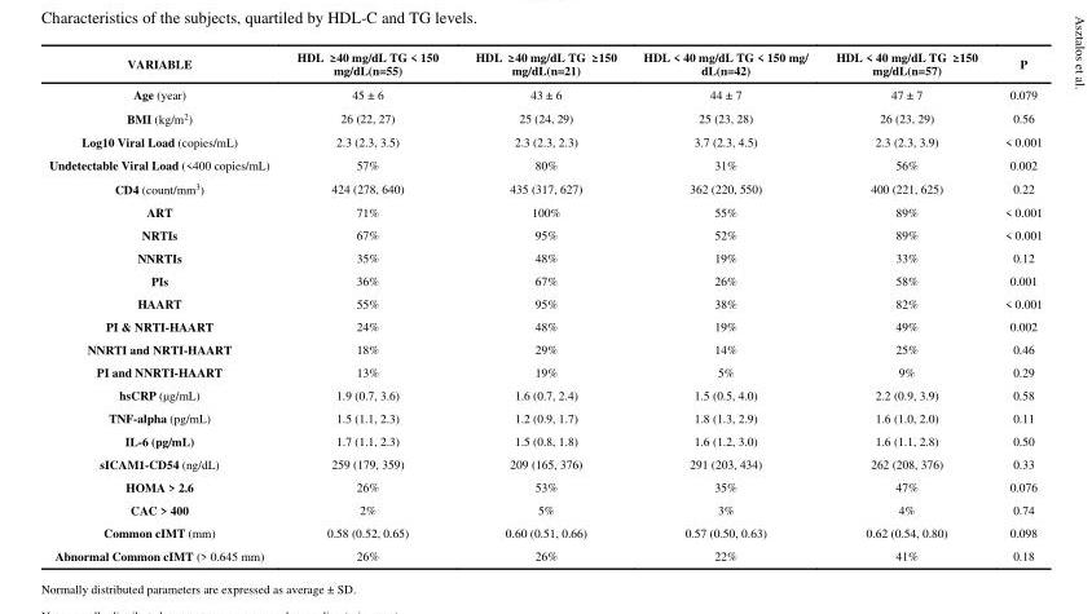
<table><thead><tr><td>VARIABLE</td><td>HDL ≥ 40 mg/dL TG &lt; 150 mg/dL(n=55)</td><td>HDL ≥ 40 mg/dL TG ≥ 150 mg/dL(n=21)</td><td>HDL &lt; 40 mg/dL TG &lt; 150 mg/ dL(n=42)</td><td>HDL &lt; 40 mg/dL TG ≥ 150 mg/dL(n=57)</td><td>P</td></tr></thead><tbody><tr><td>Age (year)</td><td>45 ± 6</td><td>43 ± 6</td><td>44 ± 7</td><td>47 ± 7</td><td>0.079</td></tr><tr><td>BMI (kg/m<sup>2</sup>)</td><td>26 (22, 27)</td><td>25 (24, 29)</td><td>25 (23, 28)</td><td>26 (23, 29)</td><td>0.56</td></tr><tr><td>Log10 Viral Load (copies/mL)</td><td>2.3 (2.3, 3.5)</td><td>2.3 (2.3, 2.3)</td><td>3.7 (2.3, 4.5)</td><td>2.3 (2.3, 3.9)</td><td>&lt; 0.001</td></tr><tr><td>Undetectable Viral Load (&lt;400 copies/mL)</td><td>57%</td><td>80%</td><td>31%</td><td>56%</td><td>0.002</td></tr><tr><td>CD4 (count/mm<sup>3</sup>)</td><td>424 (278, 640)</td><td>435 (317, 627)</td><td>362 (220, 550)</td><td>400 (221, 625)</td><td>0.22</td></tr><tr><td>ART</td><td>71%</td><td>100%</td><td>55%</td><td>89%</td><td>&lt; 0.001</td></tr><tr><td>NRTIs</td><td>67%</td><td>95%</td><td>52%</td><td>89%</td><td>&lt; 0.001</td></tr><tr><td>NNRTIs</td><td>35%</td><td>48%</td><td>19%</td><td>33%</td><td>0.12</td></tr><tr><td>PIs</td><td>36%</td><td>67%</td><td>26%</td><td>58%</td><td>0.001</td></tr><tr><td>HAART</td><td>55%</td><td>95%</td><td>38%</td><td>82%</td><td>&lt; 0.001</td></tr><tr><td>PI &amp; NRTI-HAART</td><td>24%</td><td>48%</td><td>19%</td><td>49%</td><td>0.002</td></tr><tr><td>NNRTI and NRTI-HAART</td><td>18%</td><td>29%</td><td>14%</td><td>25%</td><td>0.46</td></tr><tr><td>PI and NNRTI-HAART</td><td>13%</td><td>19%</td><td>5%</td><td>9%</td><td>0.29</td></tr><tr><td>hsCRP (μg/mL)</td><td>1.9 (0.7, 3.6)</td><td>1.6 (0.7, 2.4)</td><td>1.5 (0.5, 4.0)</td><td>2.2 (0.9, 3.9)</td><td>0.58</td></tr><tr><td>TNF-alpha (pg/mL)</td><td>1.5 (1.1, 2.3)</td><td>1.2 (0.9, 1.7)</td><td>1.8 (1.3, 2.9)</td><td>1.6 (1.0, 2.0)</td><td>0.11</td></tr><tr><td>IL-6 (pg/mL)</td><td>1.7 (1.1, 2.3)</td><td>1.5 (0.8, 1.8)</td><td>1.6 (1.2, 3.0)</td><td>1.6 (1.1, 2.8)</td><td>0.50</td></tr><tr><td>sICAM1-CD54 (ng/dL)</td><td>259 (179, 359)</td><td>209 (165, 376)</td><td>291 (203, 434)</td><td>262 (208, 376)</td><td>0.33</td></tr><tr><td>HOMA &gt; 2.6</td><td>26%</td><td>53%</td><td>35%</td><td>47%</td><td>0.076</td></tr><tr><td>CAC &gt; 400</td><td>2%</td><td>5%</td><td>3%</td><td>4%</td><td>0.74</td></tr><tr><td>Common cIMT (mm)</td><td>0.58 (0.52, 0.65)</td><td>0.60 (0.51, 0.66)</td><td>0.57 (0.50, 0.63)</td><td>0.62 (0.54, 0.80)</td><td>0.098</td></tr><tr><td>Abnormal Common cIMT (&gt; 0.645 mm)</td><td>26%</td><td>26%</td><td>22%</td><td>41%</td><td>0.18</td></tr></tbody></table>